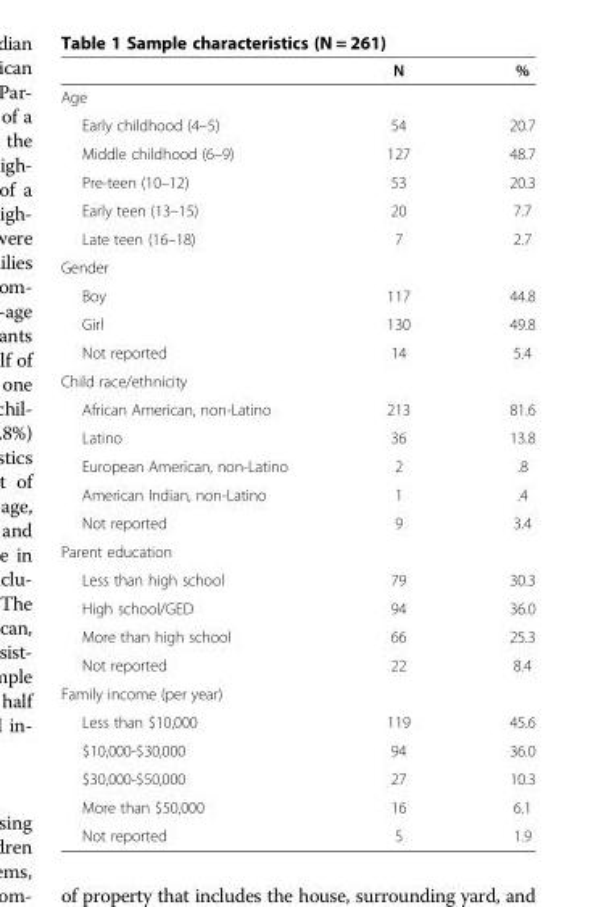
<table><thead><tr><td></td><td>N</td><td>%</td></tr></thead><tbody><tr><td colspan="3">Age</td></tr><tr><td>Early childhood (4–5)</td><td>54</td><td>20.7</td></tr><tr><td>Middle childhood (6–9)</td><td>127</td><td>48.7</td></tr><tr><td>Pre-teen (10–12)</td><td>53</td><td>20.3</td></tr><tr><td>Early teen (13–15)</td><td>20</td><td>7.7</td></tr><tr><td>Late teen (16–18)</td><td>7</td><td>2.7</td></tr><tr><td colspan="3">Gender</td></tr><tr><td>Boy</td><td>117</td><td>44.8</td></tr><tr><td>Girl</td><td>130</td><td>49.8</td></tr><tr><td>Not reported</td><td>14</td><td>5.4</td></tr><tr><td colspan="3">Child race/ethnicity</td></tr><tr><td>African American, non-Latino</td><td>213</td><td>81.6</td></tr><tr><td>Latino</td><td>36</td><td>13.8</td></tr><tr><td>European American, non-Latino</td><td>2</td><td>.8</td></tr><tr><td>American Indian, non-Latino</td><td>1</td><td>.4</td></tr><tr><td>Not reported</td><td>9</td><td>3.4</td></tr><tr><td colspan="3">Parent education</td></tr><tr><td>Less than high school</td><td>79</td><td>30.3</td></tr><tr><td>High school/GED</td><td>94</td><td>36.0</td></tr><tr><td>More than high school</td><td>66</td><td>25.3</td></tr><tr><td>Not reported</td><td>22</td><td>8.4</td></tr><tr><td colspan="3">Family income (per year)</td></tr><tr><td>Less than $10,000</td><td>119</td><td>45.6</td></tr><tr><td>$10,000-$30,000</td><td>94</td><td>36.0</td></tr><tr><td>$30,000-$50,000</td><td>27</td><td>10.3</td></tr><tr><td>More than $50,000</td><td>16</td><td>6.1</td></tr><tr><td>Not reported</td><td>5</td><td>1.9</td></tr></tbody></table>